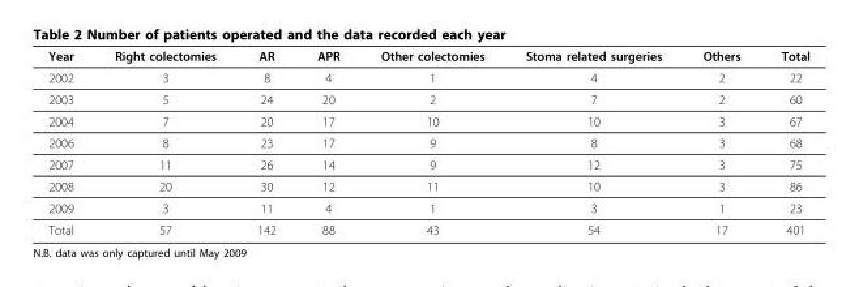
<table><thead><tr><td>Year</td><td>Right colectomies</td><td>AR</td><td>APR</td><td>Other colectomies</td><td>Stoma related surgeries</td><td>Others</td><td>Total</td></tr></thead><tbody><tr><td>2002</td><td>3</td><td>8</td><td>4</td><td>1</td><td>4</td><td>2</td><td>22</td></tr><tr><td>2003</td><td>5</td><td>24</td><td>20</td><td>2</td><td>7</td><td>2</td><td>60</td></tr><tr><td>2004</td><td>7</td><td>20</td><td>17</td><td>10</td><td>10</td><td>3</td><td>67</td></tr><tr><td>2006</td><td>8</td><td>23</td><td>17</td><td>9</td><td>8</td><td>3</td><td>68</td></tr><tr><td>2007</td><td>11</td><td>26</td><td>14</td><td>9</td><td>12</td><td>3</td><td>75</td></tr><tr><td>2008</td><td>20</td><td>30</td><td>12</td><td>11</td><td>10</td><td>3</td><td>86</td></tr><tr><td>2009</td><td>3</td><td>11</td><td>4</td><td>1</td><td>3</td><td>1</td><td>23</td></tr><tr><td>Total</td><td>57</td><td>142</td><td>88</td><td>43</td><td>54</td><td>17</td><td>401</td></tr></tbody></table>